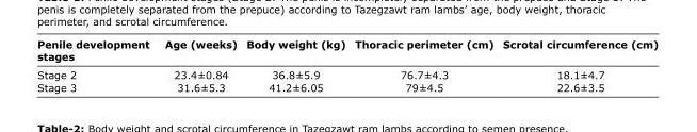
<table><thead><tr><td>Penile development stages</td><td>Age (weeks)</td><td>Body weight (kg)</td><td>Thoracic perimeter (cm)</td><td>Scrotal circumference (cm)</td></tr></thead><tbody><tr><td>Stage 2</td><td>23.4±0.84</td><td>36.8±5.9</td><td>76.7±4.3</td><td>18.1±4.7</td></tr><tr><td>Stage 3</td><td>31.6±5.3</td><td>41.2±6.05</td><td>79±4.5</td><td>22.6±3.5</td></tr></tbody></table>